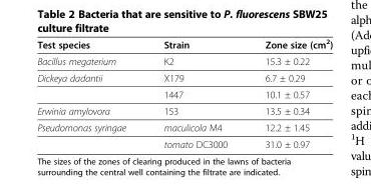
<table><thead><tr><td>Test species</td><td>Strain</td><td>Zone size (cm<sup>2</sup>)</td></tr></thead><tbody><tr><td>Bacillus megaterium</td><td>K2</td><td>15.3 ± 0.22</td></tr><tr><td rowspan="2">Dickeya dadantii</td><td>X179</td><td>6.7 ± 0.29</td></tr><tr><td>1447</td><td>10.1 ± 0.57</td></tr><tr><td>Erwinia amylovora</td><td>153</td><td>13.5 ± 0.34</td></tr><tr><td rowspan="2">Pseudomonas syringae</td><td>maculicola M4</td><td>12.2 ± 1.45</td></tr><tr><td>tomato DC3000</td><td>31.0 ± 0.97</td></tr></tbody></table>